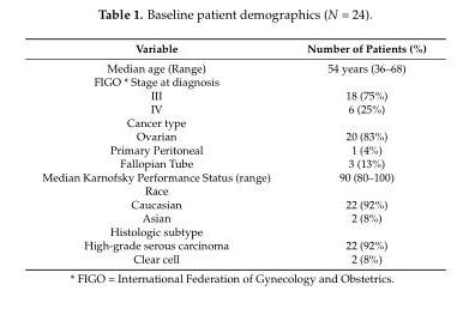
<table><thead><tr><td>Variable</td><td>Number of Patients (%)</td></tr></thead><tbody><tr><td>Median age (Range)</td><td>54 years (36–68)</td></tr><tr><td colspan="2">FIGO * Stage at diagnosis</td></tr><tr><td>III</td><td>18 (75%)</td></tr><tr><td>IV</td><td>6 (25%)</td></tr><tr><td colspan="2">Cancer type</td></tr><tr><td>Ovarian</td><td>20 (83%)</td></tr><tr><td>Primary Peritoneal</td><td>1 (4%)</td></tr><tr><td>Fallopian Tube</td><td>3 (13%)</td></tr><tr><td>Median Karnofsky Performance Status (range)</td><td>90 (80–100)</td></tr><tr><td colspan="2">Race</td></tr><tr><td>Caucasian</td><td>22 (92%)</td></tr><tr><td>Asian</td><td>2 (8%)</td></tr><tr><td colspan="2">Histologic subtype</td></tr><tr><td>High-grade serous carcinoma</td><td>22 (92%)</td></tr><tr><td>Clear cell</td><td>2 (8%)</td></tr></tbody></table>